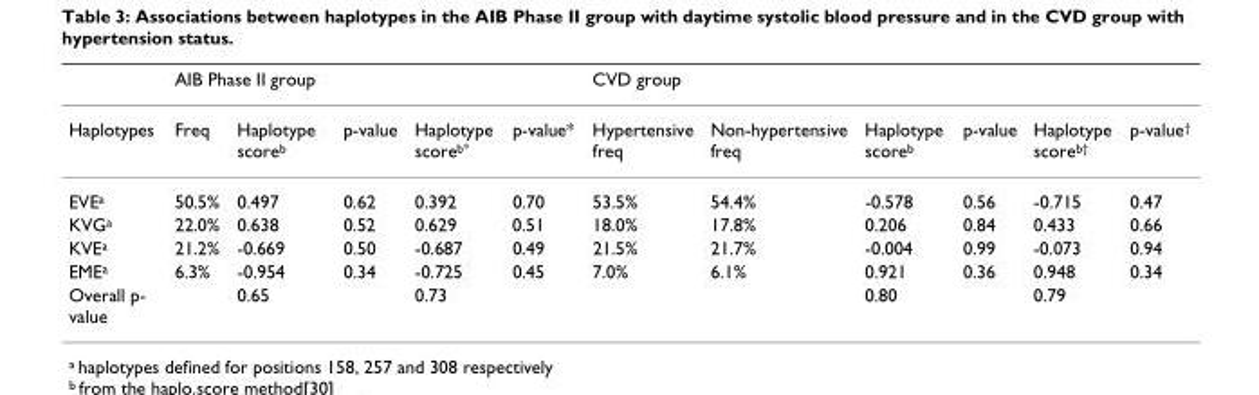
<table><thead><tr><td rowspan="2">Haplotypes</td><td colspan="5">AIB Phase II group</td><td colspan="6">CVD group</td></tr><tr><td>Freq</td><td>Haplotype scoreb</td><td>p-value</td><td>Haplotype scoreb*</td><td>p-value*</td><td>Hypertensive freq</td><td>Non-hypertensive freq</td><td>Haplotype scoreb</td><td>p-value</td><td>Haplotype scoreb†</td><td>p-value†</td></tr></thead><tbody><tr><td>EVEa</td><td>50.5%</td><td>0.497</td><td>0.62</td><td>0.392</td><td>0.70</td><td>53.5%</td><td>54.4%</td><td>-0.578</td><td>0.56</td><td>-0.715</td><td>0.47</td></tr><tr><td>KVGa</td><td>22.0%</td><td>0.638</td><td>0.52</td><td>0.629</td><td>0.51</td><td>18.0%</td><td>17.8%</td><td>0.206</td><td>0.84</td><td>0.433</td><td>0.66</td></tr><tr><td>KVEa</td><td>21.2%</td><td>-0.669</td><td>0.50</td><td>-0.687</td><td>0.49</td><td>21.5%</td><td>21.7%</td><td>-0.004</td><td>0.99</td><td>-0.073</td><td>0.94</td></tr><tr><td>EMEa</td><td>6.3%</td><td>-0.954</td><td>0.34</td><td>-0.725</td><td>0.45</td><td>7.0%</td><td>6.1%</td><td>0.921</td><td>0.36</td><td>0.948</td><td>0.34</td></tr><tr><td>Overall p- value</td><td></td><td colspan="2">0.65</td><td colspan="2">0.73</td><td></td><td></td><td colspan="2">0.80</td><td colspan="2">0.79</td></tr></tbody></table>